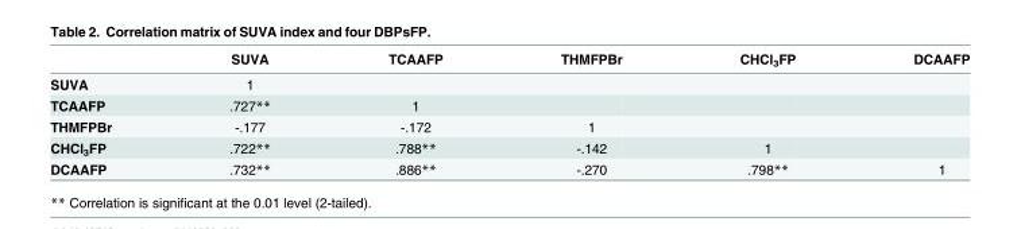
<table><thead><tr><td></td><td>SUVA</td><td>TCAAFP</td><td>THMFPBr</td><td>CHCl<sub>3</sub>FP</td><td>DCAAFP</td></tr></thead><tbody><tr><td>SUVA</td><td>1</td><td></td><td></td><td></td><td></td></tr><tr><td>TCAAFP</td><td>.727**</td><td>1</td><td></td><td></td><td></td></tr><tr><td>THMFPBr</td><td>-.177</td><td>-.172</td><td>1</td><td></td><td></td></tr><tr><td>CHCl<sub>3</sub>FP</td><td>.722**</td><td>.788**</td><td>-.142</td><td>1</td><td></td></tr><tr><td>DCAAFP</td><td>.732**</td><td>.886**</td><td>-.270</td><td>.798**</td><td>1</td></tr></tbody></table>